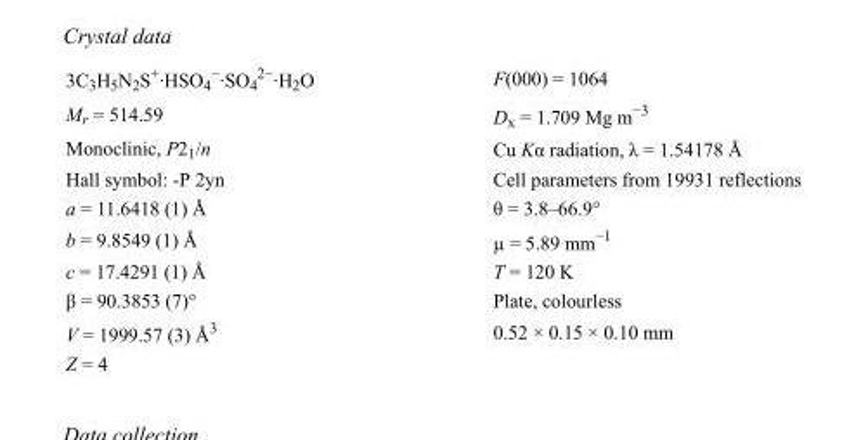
<table><tbody><tr><td>3C<sub>3</sub>H<sub>5</sub>N<sub>2</sub>S<sup>+</sup>·HSO<sub>4</sub> <sup>−</sup>·SO<sub>4</sub> <sup>2−</sup>·H<sub>2</sub>O</td><td>F(000) = 1064</td></tr><tr><td>M<sub>r</sub> = 514.59</td><td>D<sub>x</sub> = 1.709 Mg m<sup>−3</sup></td></tr><tr><td>Monoclinic, P2<sub>1</sub>/n</td><td>Cu Kα radiation, λ = 1.54178 Å</td></tr><tr><td>Hall symbol: -P 2yn</td><td>Cell parameters from 19931 reflections</td></tr><tr><td>a = 11.6418 (1) Å</td><td>θ = 3.8–66.9°</td></tr><tr><td>b = 9.8549 (1) Å</td><td>µ = 5.89 mm<sup>−1</sup></td></tr><tr><td>c = 17.4291 (1) Å</td><td>T = 120 K</td></tr><tr><td>β = 90.3853 (7)°</td><td>Plate, colourless</td></tr><tr><td>V = 1999.57 (3) Å<sup>3</sup></td><td>0.52 × 0.15 × 0.10 mm</td></tr><tr><td>Z = 4</td><td></td></tr></tbody></table>